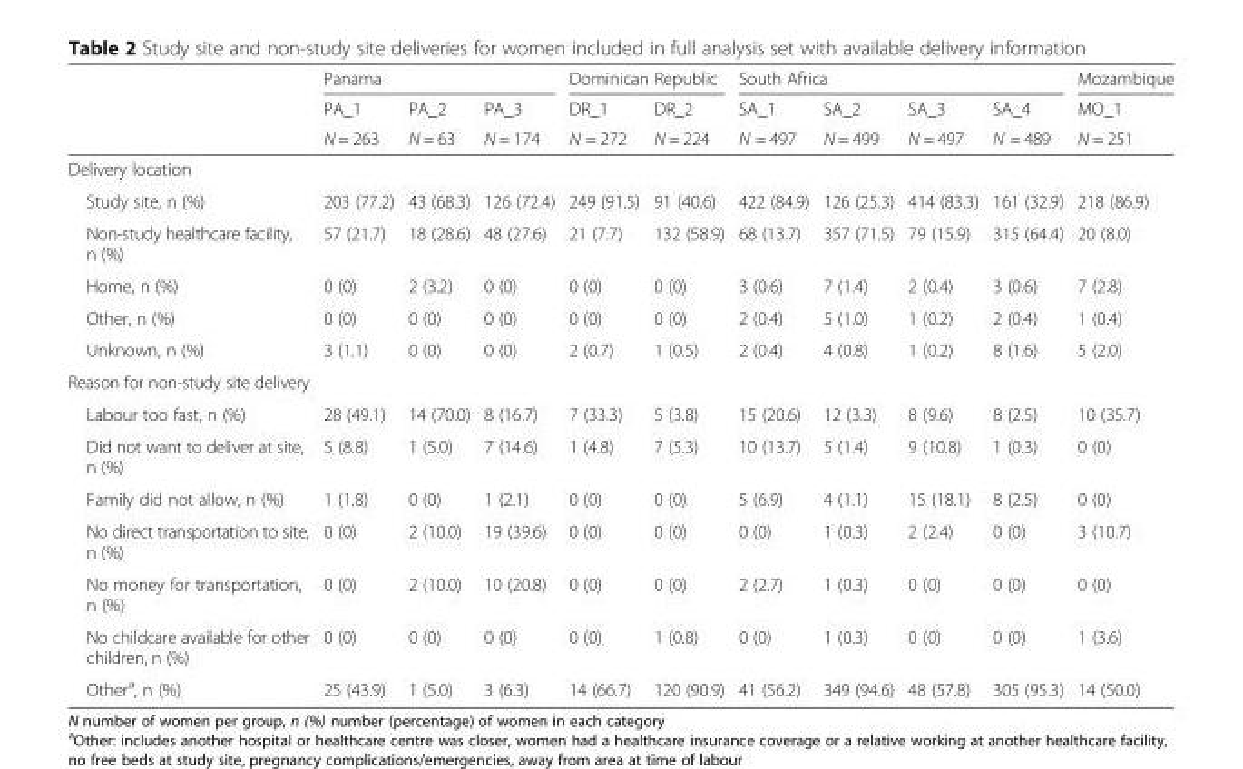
<table><thead><tr><td rowspan="3"></td><td colspan="3">Panama</td><td colspan="2">Dominican Republic</td><td colspan="4">South Africa</td><td rowspan="3">Mozambique MO_1 N = 251</td></tr><tr><td rowspan="2">PA_1 N = 263</td><td rowspan="2">PA_2 N = 63</td><td rowspan="2">PA_3 N = 174</td><td rowspan="2">DR_1 N = 272</td><td rowspan="2">DR_2 N = 224</td><td rowspan="2">SA_1 N = 497</td><td rowspan="2">SA_2 N = 499</td><td rowspan="2">SA_3 N = 497</td><td rowspan="2">SA_4 N = 489</td></tr><tr></tr></thead><tbody><tr><td colspan="11">Delivery location</td></tr><tr><td>Study site, n (%)</td><td>203 (77.2)</td><td>43 (68.3)</td><td>126 (72.4)</td><td>249 (91.5)</td><td>91 (40.6)</td><td>422 (84.9)</td><td>126 (25.3)</td><td>414 (83.3)</td><td>161 (32.9)</td><td>218 (86.9)</td></tr><tr><td>Non-study healthcare facility, n (%)</td><td>57 (21.7)</td><td>18 (28.6)</td><td>48 (27.6)</td><td>21 (7.7)</td><td>132 (58.9)</td><td>68 (13.7)</td><td>357 (71.5)</td><td>79 (15.9)</td><td>315 (64.4)</td><td>20 (8.0)</td></tr><tr><td>Home, n (%)</td><td>0 (0)</td><td>2 (3.2)</td><td>0 (0)</td><td>0 (0)</td><td>0 (0)</td><td>3 (0.6)</td><td>7 (1.4)</td><td>2 (0.4)</td><td>3 (0.6)</td><td>7 (2.8)</td></tr><tr><td>Other, n (%)</td><td>0 (0)</td><td>0 (0)</td><td>0 (0)</td><td>0 (0)</td><td>0 (0)</td><td>2 (0.4)</td><td>5 (1.0)</td><td>1 (0.2)</td><td>2 (0.4)</td><td>1 (0.4)</td></tr><tr><td>Unknown, n (%)</td><td>3 (1.1)</td><td>0 (0)</td><td>0 (0)</td><td>2 (0.7)</td><td>1 (0.5)</td><td>2 (0.4)</td><td>4 (0.8)</td><td>1 (0.2)</td><td>8 (1.6)</td><td>5 (2.0)</td></tr><tr><td colspan="11">Reason for non-study site delivery</td></tr><tr><td>Labour too fast, n (%)</td><td>28 (49.1)</td><td>14 (70.0)</td><td>8 (16.7)</td><td>7 (33.3)</td><td>5 (3.8)</td><td>15 (20.6)</td><td>12 (3.3)</td><td>8 (9.6)</td><td>8 (2.5)</td><td>10 (35.7)</td></tr><tr><td>Did not want to deliver at site, n (%)</td><td>5 (8.8)</td><td>1 (5.0)</td><td>7 (14.6)</td><td>1 (4.8)</td><td>7 (5.3)</td><td>10 (13.7)</td><td>5 (1.4)</td><td>9 (10.8)</td><td>1 (0.3)</td><td>0 (0)</td></tr><tr><td>Family did not allow, n (%)</td><td>1 (1.8)</td><td>0 (0)</td><td>1 (2.1)</td><td>0 (0)</td><td>0 (0)</td><td>5 (6.9)</td><td>4 (1.1)</td><td>15 (18.1)</td><td>8 (2.5)</td><td>0 (0)</td></tr><tr><td>No direct transportation to site, n (%)</td><td>0 (0)</td><td>2 (10.0)</td><td>19 (39.6)</td><td>0 (0)</td><td>0 (0)</td><td>0 (0)</td><td>1 (0.3)</td><td>2 (2.4)</td><td>0 (0)</td><td>3 (10.7)</td></tr><tr><td>No money for transportation, n (%)</td><td>0 (0)</td><td>2 (10.0)</td><td>10 (20.8)</td><td>0 (0)</td><td>0 (0)</td><td>2 (2.7)</td><td>1 (0.3)</td><td>0 (0)</td><td>0 (0)</td><td>0 (0)</td></tr><tr><td>No childcare available for other children, n (%)</td><td>0 (0)</td><td>0 (0)</td><td>0 (0)</td><td>0 (0)</td><td>1 (0.8)</td><td>0 (0)</td><td>1 (0.3)</td><td>0 (0)</td><td>0 (0)</td><td>1 (3.6)</td></tr><tr><td>Other<sup>a</sup>, n (%)</td><td>25 (43.9)</td><td>1 (5.0)</td><td>3 (6.3)</td><td>14 (66.7)</td><td>120 (90.9)</td><td>41 (56.2)</td><td>349 (94.6)</td><td>48 (57.8)</td><td>305 (95.3)</td><td>14 (50.0)</td></tr></tbody></table>